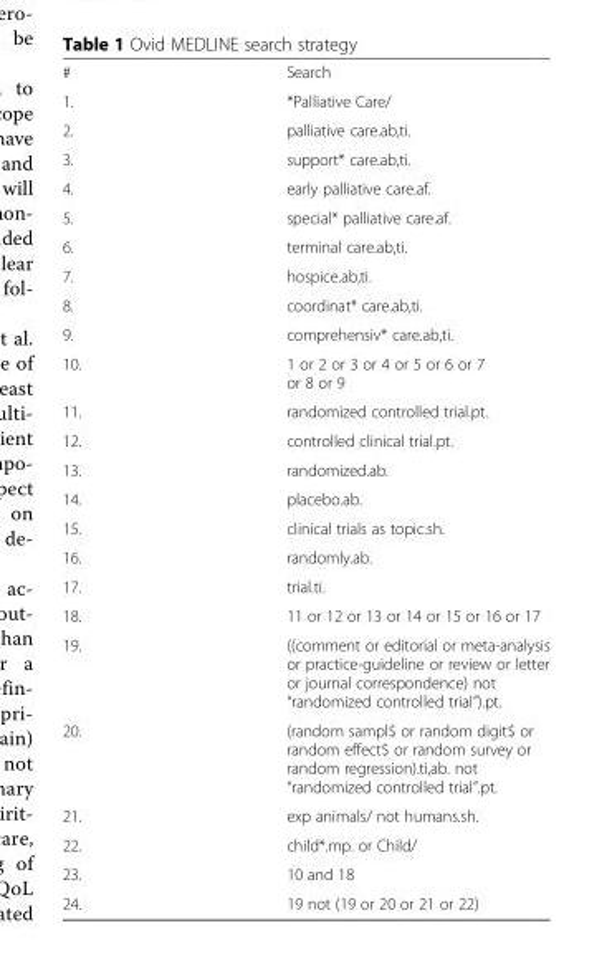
<table><tbody><tr><td>#</td><td>Search</td></tr><tr><td>1.</td><td>*Palliative Care/</td></tr><tr><td>2.</td><td>palliative care.ab,ti.</td></tr><tr><td>3.</td><td>support* care.ab,ti.</td></tr><tr><td>4.</td><td>early palliative care.af.</td></tr><tr><td>5.</td><td>special* palliative care.af.</td></tr><tr><td>6.</td><td>terminal care.ab,ti.</td></tr><tr><td>7.</td><td>hospice.ab,ti.</td></tr><tr><td>8.</td><td>coordinat* care.ab,ti.</td></tr><tr><td>9.</td><td>comprehensiv* care.ab,ti.</td></tr><tr><td>10.</td><td>1 or 2 or 3 or 4 or 5 or 6 or 7 or 8 or 9</td></tr><tr><td>11.</td><td>randomized controlled trial.pt.</td></tr><tr><td>12.</td><td>controlled clinical trial.pt.</td></tr><tr><td>13.</td><td>randomized.ab.</td></tr><tr><td>14.</td><td>placebo.ab.</td></tr><tr><td>15.</td><td>clinical trials as topic.sh.</td></tr><tr><td>16.</td><td>randomly.ab.</td></tr><tr><td>17.</td><td>trial.ti.</td></tr><tr><td>18.</td><td>11 or 12 or 13 or 14 or 15 or 16 or 17</td></tr><tr><td>19.</td><td>((comment or editorial or meta-analysis or practice-guideline or review or letter or journal correspondence) not “randomized controlled trial”).pt.</td></tr><tr><td>20.</td><td>(random sampl$ or random digit$ or random effect$ or random survey or random regression).ti,ab. not “randomized controlled trial”.pt.</td></tr><tr><td>21.</td><td>exp animals/ not humans.sh.</td></tr><tr><td>22.</td><td>child*.mp. or Child/</td></tr><tr><td>23.</td><td>10 and 18</td></tr><tr><td>24.</td><td>19 not (19 or 20 or 21 or 22)</td></tr></tbody></table>